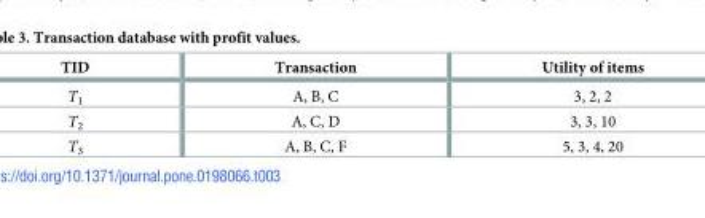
<table><thead><tr><td>TID</td><td>Transaction</td><td>Utility of items</td></tr></thead><tbody><tr><td>T<sub>1</sub></td><td>A, B, C</td><td>3, 2, 2</td></tr><tr><td>T<sub>2</sub></td><td>A, C, D</td><td>3, 3, 10</td></tr><tr><td>T<sub>3</sub></td><td>A, B, C, F</td><td>5, 3, 4, 20</td></tr></tbody></table>